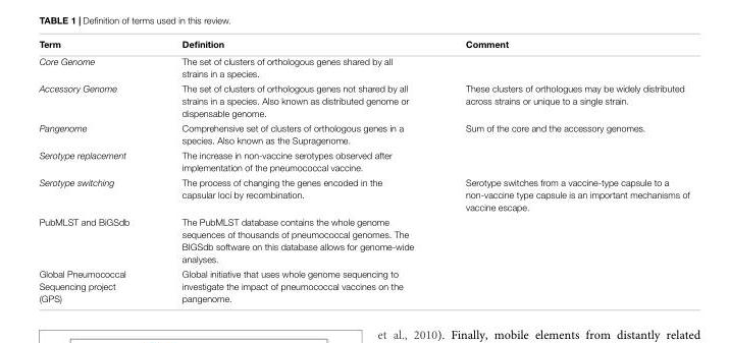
<table><thead><tr><td>Term</td><td>Definition</td><td>Comment</td></tr></thead><tbody><tr><td>Core Genome</td><td>The set of clusters of orthologous genes shared by all strains in a species.</td><td></td></tr><tr><td>Accessory Genome</td><td>The set of clusters of orthologous genes not shared by all strains in a species. Also known as distributed genome or dispensable genome.</td><td>These clusters of orthologues may be widely distributed across strains or unique to a single strain.</td></tr><tr><td>Pangenome</td><td>Comprehensive set of clusters of orthologous genes in a species. Also known as the Supragenome.</td><td>Sum of the core and the accessory genomes.</td></tr><tr><td>Serotype replacement</td><td>The increase in non-vaccine serotypes observed after implementation of the pneumococcal vaccine.</td><td></td></tr><tr><td>Serotype switching</td><td>The process of changing the genes encoded in the capsular loci by recombination.</td><td>Serotype switches from a vaccine-type capsule to a non-vaccine type capsule is an important mechanisms of vaccine escape.</td></tr><tr><td>PubMLST and BiGSdb</td><td>The PubMLST database contains the whole genome sequences of thousands of pneumococcal genomes. The BIGSdb software on this database allows for genome-wide analyses.</td><td></td></tr><tr><td>Global Pneumococcal Sequencing project (GPS)</td><td>Global initiative that uses whole genome sequencing to investigate the impact of pneumococcal vaccines on the pangenome.</td><td></td></tr></tbody></table>